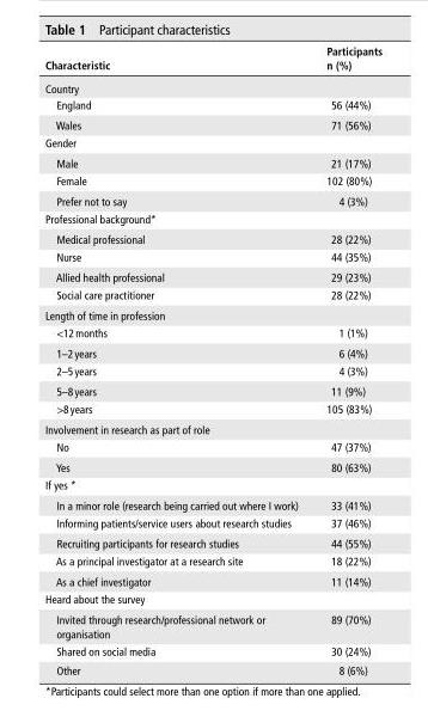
<table><thead><tr><td>Characteristic</td><td>Participants n (%)</td></tr></thead><tbody><tr><td colspan="2">Country</td></tr><tr><td>England</td><td>56 (44%)</td></tr><tr><td>Wales</td><td>71 (56%)</td></tr><tr><td colspan="2">Gender</td></tr><tr><td>Male</td><td>21 (17%)</td></tr><tr><td>Female</td><td>102 (80%)</td></tr><tr><td>Prefer not to say</td><td>4 (3%)</td></tr><tr><td colspan="2">Professional background*</td></tr><tr><td>Medical professional</td><td>28 (22%)</td></tr><tr><td>Nurse</td><td>44 (35%)</td></tr><tr><td>Allied health professional</td><td>29 (23%)</td></tr><tr><td>Social care practitioner</td><td>28 (22%)</td></tr><tr><td colspan="2">Length of time in profession</td></tr><tr><td>&lt;12 months</td><td>1 (1%)</td></tr><tr><td>1–2 years</td><td>6 (4%)</td></tr><tr><td>2–5 years</td><td>4 (3%)</td></tr><tr><td>5–8 years</td><td>11 (9%)</td></tr><tr><td>&gt;8 years</td><td>105 (83%)</td></tr><tr><td colspan="2">Involvement in research as part of role</td></tr><tr><td>No</td><td>47 (37%)</td></tr><tr><td>Yes</td><td>80 (63%)</td></tr><tr><td colspan="2">If yes *</td></tr><tr><td>In a minor role (research being carried out where I work)</td><td>33 (41%)</td></tr><tr><td>Informing patients/service users about research studies</td><td>37 (46%)</td></tr><tr><td>Recruiting participants for research studies</td><td>44 (55%)</td></tr><tr><td>As a principal investigator at a research site</td><td>18 (22%)</td></tr><tr><td>As a chief investigator</td><td>11 (14%)</td></tr><tr><td colspan="2">Heard about the survey</td></tr><tr><td>Invited through research/professional network or organisation</td><td>89 (70%)</td></tr><tr><td>Shared on social media</td><td>30 (24%)</td></tr><tr><td>Other</td><td>8 (6%)</td></tr></tbody></table>